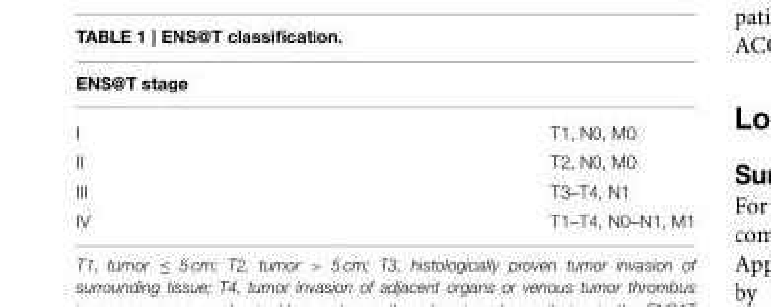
<table><thead><tr><td colspan="2">ENS@T stage</td></tr><tr><td>I</td><td>T1, N0, M0</td></tr></thead><tbody><tr><td>II</td><td>T2, N0, M0</td></tr><tr><td>III</td><td>T3–T4, N1</td></tr><tr><td>IV</td><td>T1–T4, N0–N1, M1</td></tr></tbody></table>